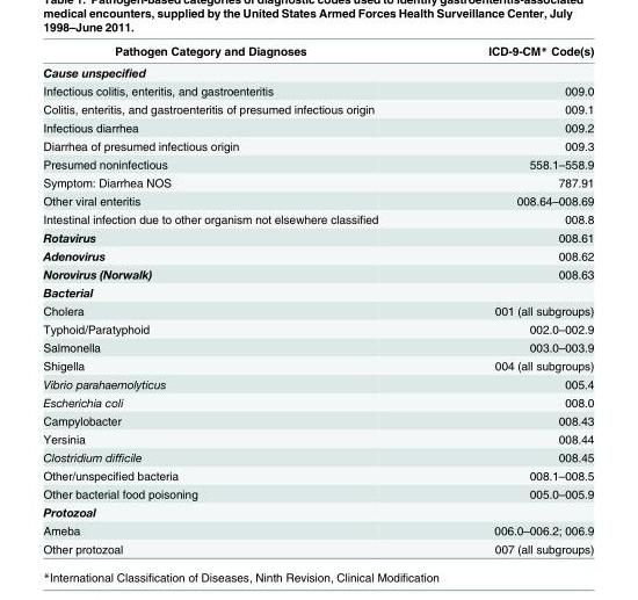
<table><thead><tr><td>Pathogen Category and Diagnoses</td><td>ICD-9-CM* Code(s)</td></tr></thead><tbody><tr><td colspan="2">Cause unspecified</td></tr><tr><td>Infectious colitis, enteritis, and gastroenteritis</td><td>009.0</td></tr><tr><td>Colitis, enteritis, and gastroenteritis of presumed infectious origin</td><td>009.1</td></tr><tr><td>Infectious diarrhea</td><td>009.2</td></tr><tr><td>Diarrhea of presumed infectious origin</td><td>009.3</td></tr><tr><td>Presumed noninfectious</td><td>558.1–558.9</td></tr><tr><td>Symptom: Diarrhea NOS</td><td>787.91</td></tr><tr><td>Other viral enteritis</td><td>008.64–008.69</td></tr><tr><td>Intestinal infection due to other organism not elsewhere classified</td><td>008.8</td></tr><tr><td>Rotavirus</td><td>008.61</td></tr><tr><td>Adenovirus</td><td>008.62</td></tr><tr><td>Norovirus (Norwalk)</td><td>008.63</td></tr><tr><td colspan="2">Bacterial</td></tr><tr><td>Cholera</td><td>001 (all subgroups)</td></tr><tr><td>Typhoid/Paratyphoid</td><td>002.0–002.9</td></tr><tr><td>Salmonella</td><td>003.0–003.9</td></tr><tr><td>Shigella</td><td>004 (all subgroups)</td></tr><tr><td>Vibrio parahaemolyticus</td><td>005.4</td></tr><tr><td>Escherichia coli</td><td>008.0</td></tr><tr><td>Campylobacter</td><td>008.43</td></tr><tr><td>Yersinia</td><td>008.44</td></tr><tr><td>Clostridium difficile</td><td>008.45</td></tr><tr><td>Other/unspecified bacteria</td><td>008.1–008.5</td></tr><tr><td>Other bacterial food poisoning</td><td>005.0–005.9</td></tr><tr><td colspan="2">Protozoal</td></tr><tr><td>Ameba</td><td>006.0–006.2; 006.9</td></tr><tr><td>Other protozoal</td><td>007 (all subgroups)</td></tr></tbody></table>